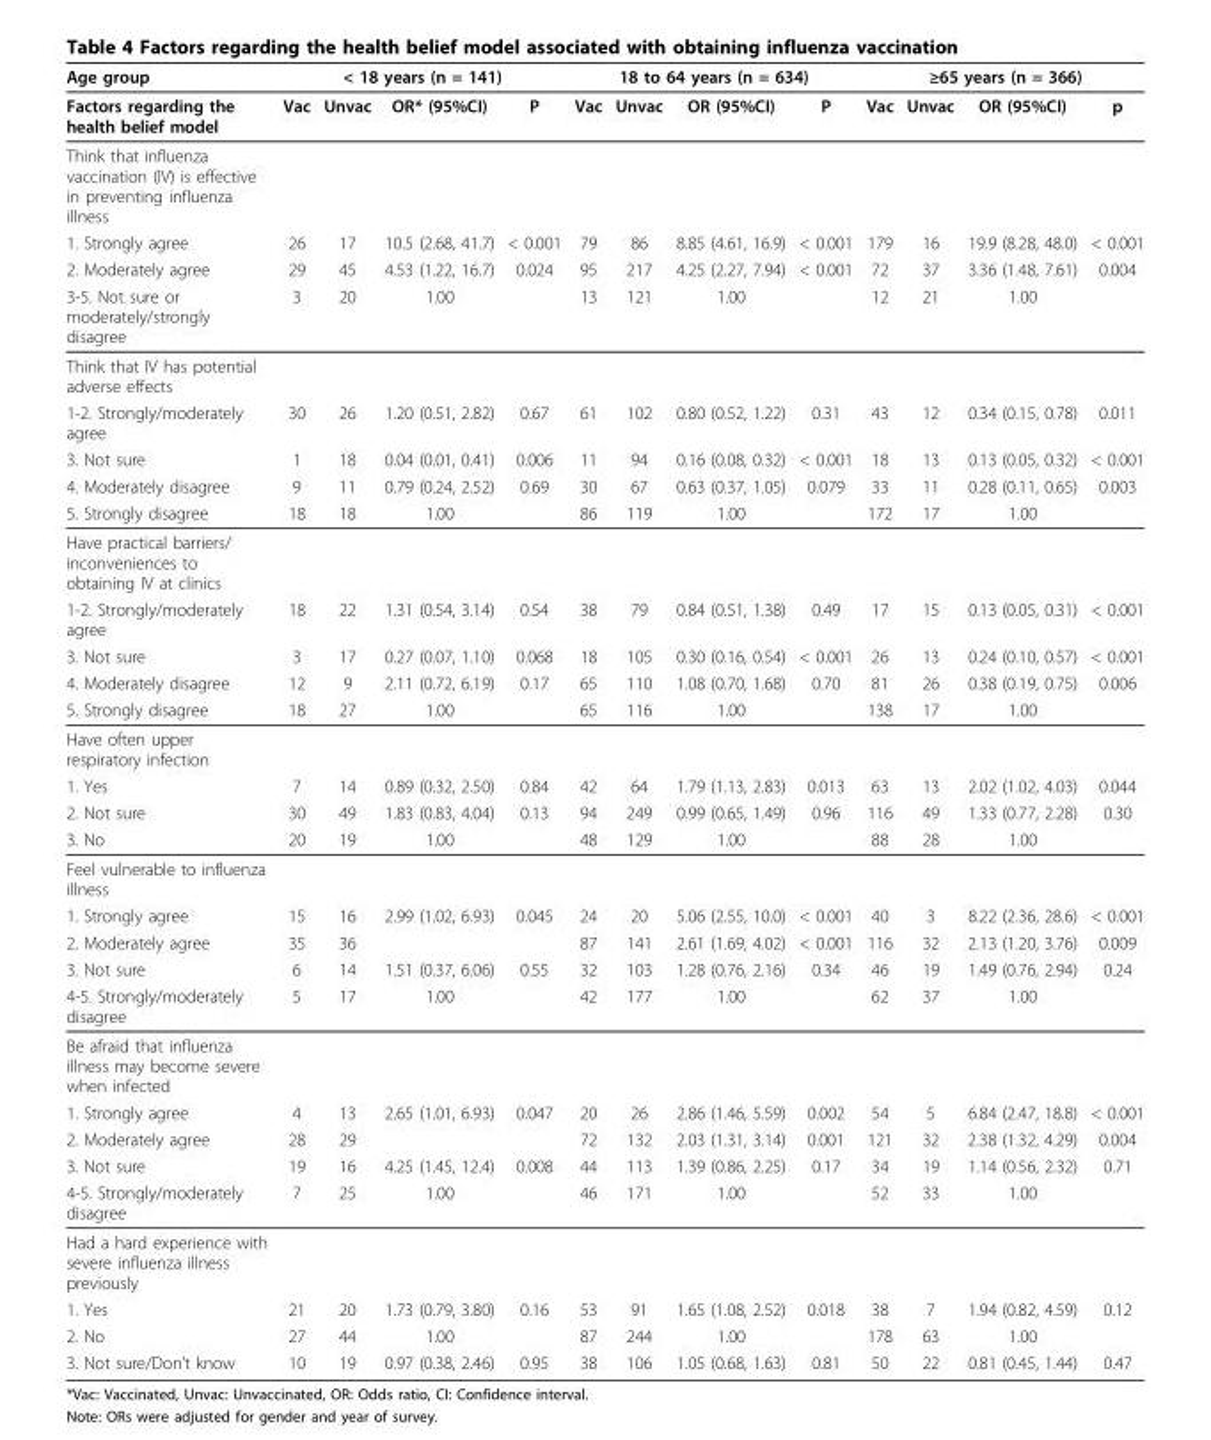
<table><thead><tr><td rowspan="2">Age group Factors regarding the health belief model</td><td colspan="4">&lt; 18 years (n = 141)</td><td colspan="4">18 to 64 years (n = 634)</td><td colspan="4">≥65 years (n = 366)</td></tr><tr><td>Vac</td><td>Unvac</td><td>OR* (95%CI)</td><td>P</td><td>Vac</td><td>Unvac</td><td>OR (95%CI)</td><td>P</td><td>Vac</td><td>Unvac</td><td>OR (95%CI)</td><td>p</td></tr></thead><tbody><tr><td colspan="13">Think that influenza vaccination (IV) is effective in preventing influenza illness</td></tr><tr><td>1. Strongly agree</td><td>26</td><td>17</td><td>10.5 (2.68, 41.7)</td><td>&lt; 0.001</td><td>79</td><td>86</td><td>8.85 (4.61, 16.9)</td><td>&lt; 0.001</td><td>179</td><td>16</td><td>19.9 (8.28, 48.0)</td><td>&lt; 0.001</td></tr><tr><td>2. Moderately agree</td><td>29</td><td>45</td><td>4.53 (1.22, 16.7)</td><td>0.024</td><td>95</td><td>217</td><td>4.25 (2.27, 7.94)</td><td>&lt; 0.001</td><td>72</td><td>37</td><td>3.36 (1.48, 7.61)</td><td>0.004</td></tr><tr><td>3-5. Not sure or moderately/strongly disagree</td><td>3</td><td>20</td><td>1.00</td><td></td><td>13</td><td>121</td><td>1.00</td><td></td><td>12</td><td>21</td><td>1.00</td><td></td></tr><tr><td colspan="13">Think that IV has potential adverse effects</td></tr><tr><td>1-2. Strongly/moderately agree</td><td>30</td><td>26</td><td>1.20 (0.51, 2.82)</td><td>0.67</td><td>61</td><td>102</td><td>0.80 (0.52, 1.22)</td><td>0.31</td><td>43</td><td>12</td><td>0.34 (0.15, 0.78)</td><td>0.011</td></tr><tr><td>3. Not sure</td><td>1</td><td>18</td><td>0.04 (0.01, 0.41)</td><td>0.006</td><td>11</td><td>94</td><td>0.16 (0.08, 0.32)</td><td>&lt; 0.001</td><td>18</td><td>13</td><td>0.13 (0.05, 0.32)</td><td>&lt; 0.001</td></tr><tr><td>4. Moderately disagree</td><td>9</td><td>11</td><td>0.79 (0.24, 2.52)</td><td>0.69</td><td>30</td><td>67</td><td>0.63 (0.37, 1.05)</td><td>0.079</td><td>33</td><td>11</td><td>0.28 (0.11, 0.65)</td><td>0.003</td></tr><tr><td>5. Strongly disagree</td><td>18</td><td>18</td><td>1.00</td><td></td><td>86</td><td>119</td><td>1.00</td><td></td><td>172</td><td>17</td><td>1.00</td><td></td></tr><tr><td colspan="13">Have practical barriers/ inconveniences to obtaining IV at clinics</td></tr><tr><td>1-2. Strongly/moderately agree</td><td>18</td><td>22</td><td>1.31 (0.54, 3.14)</td><td>0.54</td><td>38</td><td>79</td><td>0.84 (0.51, 1.38)</td><td>0.49</td><td>17</td><td>15</td><td>0.13 (0.05, 0.31)</td><td>&lt; 0.001</td></tr><tr><td>3. Not sure</td><td>3</td><td>17</td><td>0.27 (0.07, 1.10)</td><td>0.068</td><td>18</td><td>105</td><td>0.30 (0.16, 0.54)</td><td>&lt; 0.001</td><td>26</td><td>13</td><td>0.24 (0.10, 0.57)</td><td>&lt; 0.001</td></tr><tr><td>4. Moderately disagree</td><td>12</td><td>9</td><td>2.11 (0.72, 6.19)</td><td>0.17</td><td>65</td><td>110</td><td>1.08 (0.70, 1.68)</td><td>0.70</td><td>81</td><td>26</td><td>0.38 (0.19, 0.75)</td><td>0.006</td></tr><tr><td>5. Strongly disagree</td><td>18</td><td>27</td><td>1.00</td><td></td><td>65</td><td>116</td><td>1.00</td><td></td><td>138</td><td>17</td><td>1.00</td><td></td></tr><tr><td colspan="13">Have often upper respiratory infection</td></tr><tr><td>1. Yes</td><td>7</td><td>14</td><td>0.89 (0.32, 2.50)</td><td>0.84</td><td>42</td><td>64</td><td>1.79 (1.13, 2.83)</td><td>0.013</td><td>63</td><td>13</td><td>2.02 (1.02, 4.03)</td><td>0.044</td></tr><tr><td>2. Not sure</td><td>30</td><td>49</td><td>1.83 (0.83, 4.04)</td><td>0.13</td><td>94</td><td>249</td><td>0.99 (0.65, 1.49)</td><td>0.96</td><td>116</td><td>49</td><td>1.33 (0.77, 2.28)</td><td>0.30</td></tr><tr><td>3. No</td><td>20</td><td>19</td><td>1.00</td><td></td><td>48</td><td>129</td><td>1.00</td><td></td><td>88</td><td>28</td><td>1.00</td><td></td></tr><tr><td colspan="13">Feel vulnerable to influenza illness</td></tr><tr><td>1. Strongly agree</td><td>15</td><td>16</td><td>2.99 (1.02, 6.93)</td><td>0.045</td><td>24</td><td>20</td><td>5.06 (2.55, 10.0)</td><td>&lt; 0.001</td><td>40</td><td>3</td><td>8.22 (2.36, 28.6)</td><td>&lt; 0.001</td></tr><tr><td>2. Moderately agree</td><td>35</td><td>36</td><td></td><td></td><td>87</td><td>141</td><td>2.61 (1.69, 4.02)</td><td>&lt; 0.001</td><td>116</td><td>32</td><td>2.13 (1.20, 3.76)</td><td>0.009</td></tr><tr><td>3. Not sure</td><td>6</td><td>14</td><td>1.51 (0.37, 6.06)</td><td>0.55</td><td>32</td><td>103</td><td>1.28 (0.76, 2.16)</td><td>0.34</td><td>46</td><td>19</td><td>1.49 (0.76, 2.94)</td><td>0.24</td></tr><tr><td>4-5. Strongly/moderately disagree</td><td>5</td><td>17</td><td>1.00</td><td></td><td>42</td><td>177</td><td>1.00</td><td></td><td>62</td><td>37</td><td>1.00</td><td></td></tr><tr><td colspan="13">Be afraid that influenza illness may become severe when infected</td></tr><tr><td>1. Strongly agree</td><td>4</td><td>13</td><td>2.65 (1.01, 6.93)</td><td>0.047</td><td>20</td><td>26</td><td>2.86 (1.46, 5.59)</td><td>0.002</td><td>54</td><td>5</td><td>6.84 (2.47, 18.8)</td><td>&lt; 0.001</td></tr><tr><td>2. Moderately agree</td><td>28</td><td>29</td><td></td><td></td><td>72</td><td>132</td><td>2.03 (1.31, 3.14)</td><td>0.001</td><td>121</td><td>32</td><td>2.38 (1.32, 4.29)</td><td>0.004</td></tr><tr><td>3. Not sure</td><td>19</td><td>16</td><td>4.25 (1.45, 12.4)</td><td>0.008</td><td>44</td><td>113</td><td>1.39 (0.86, 2.25)</td><td>0.17</td><td>34</td><td>19</td><td>1.14 (0.56, 2.32)</td><td>0.71</td></tr><tr><td>4-5. Strongly/moderately disagree</td><td>7</td><td>25</td><td>1.00</td><td></td><td>46</td><td>171</td><td>1.00</td><td></td><td>52</td><td>33</td><td>1.00</td><td></td></tr><tr><td colspan="13">Had a hard experience with severe influenza illness previously</td></tr><tr><td>1. Yes</td><td>21</td><td>20</td><td>1.73 (0.79, 3.80)</td><td>0.16</td><td>53</td><td>91</td><td>1.65 (1.08, 2.52)</td><td>0.018</td><td>38</td><td>7</td><td>1.94 (0.82, 4.59)</td><td>0.12</td></tr><tr><td>2. No</td><td>27</td><td>44</td><td>1.00</td><td></td><td>87</td><td>244</td><td>1.00</td><td></td><td>178</td><td>63</td><td>1.00</td><td></td></tr><tr><td>3. Not sure/Don’t know</td><td>10</td><td>19</td><td>0.97 (0.38, 2.46)</td><td>0.95</td><td>38</td><td>106</td><td>1.05 (0.68, 1.63)</td><td>0.81</td><td>50</td><td>22</td><td>0.81 (0.45, 1.44)</td><td>0.47</td></tr></tbody></table>